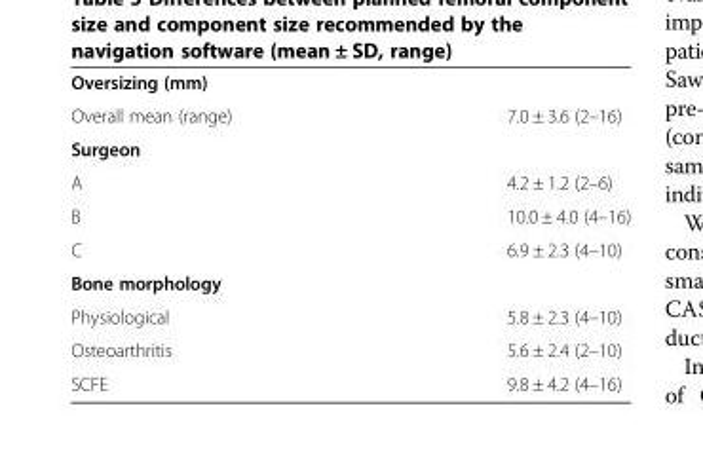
<table><tbody><tr><td colspan="2">Oversizing (mm)</td></tr><tr><td>Overall mean (range)</td><td>7.0 ± 3.6 (2–16)</td></tr><tr><td colspan="2">Surgeon</td></tr><tr><td>A</td><td>4.2 ± 1.2 (2–6)</td></tr><tr><td>B</td><td>10.0 ± 4.0 (4–16)</td></tr><tr><td>C</td><td>6.9 ± 2.3 (4–10)</td></tr><tr><td colspan="2">Bone morphology</td></tr><tr><td>Physiological</td><td>5.8 ± 2.3 (4–10)</td></tr><tr><td>Osteoarthritis</td><td>5.6 ± 2.4 (2–10)</td></tr><tr><td>SCFE</td><td>9.8 ± 4.2 (4–16)</td></tr></tbody></table>